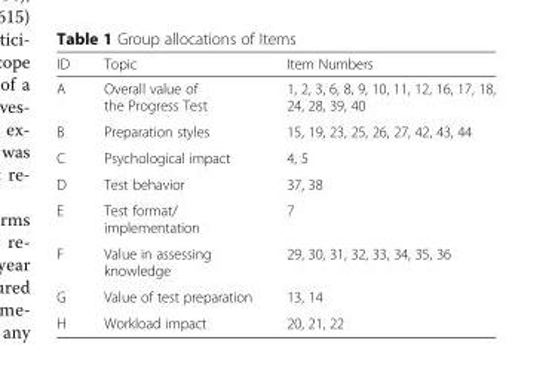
<table><thead><tr><td>ID</td><td>Topic</td><td>Item Numbers</td></tr></thead><tbody><tr><td>A</td><td>Overall value of the Progress Test</td><td>1, 2, 3, 6, 8, 9, 10, 11, 12, 16, 17, 18, 24, 28, 39, 40</td></tr><tr><td>B</td><td>Preparation styles</td><td>15, 19, 23, 25, 26, 27, 42, 43, 44</td></tr><tr><td>C</td><td>Psychological impact</td><td>4, 5</td></tr><tr><td>D</td><td>Test behavior</td><td>37, 38</td></tr><tr><td>E</td><td>Test format/ implementation</td><td>7</td></tr><tr><td>F</td><td>Value in assessing knowledge</td><td>29, 30, 31, 32, 33, 34, 35, 36</td></tr><tr><td>G</td><td>Value of test preparation</td><td>13, 14</td></tr><tr><td>H</td><td>Workload impact</td><td>20, 21, 22</td></tr></tbody></table>